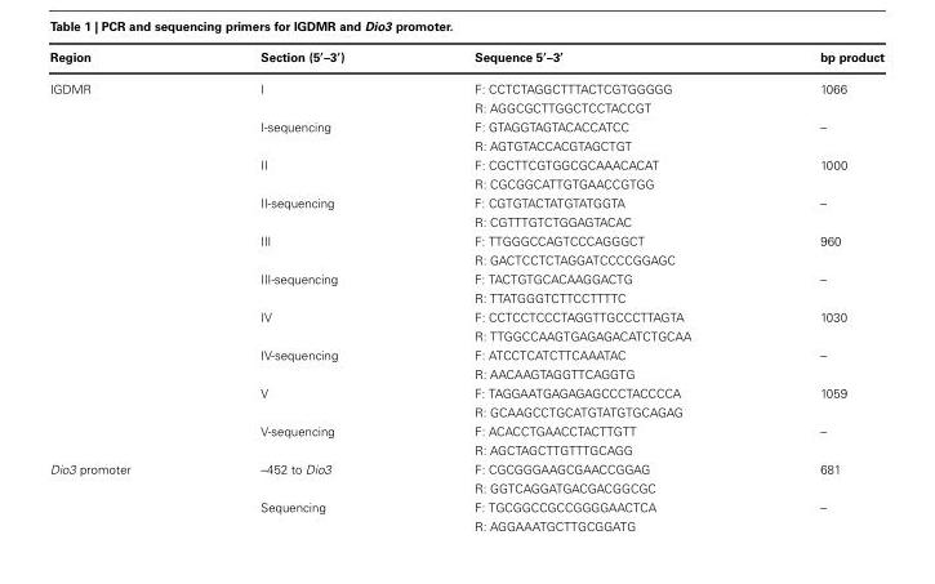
<table><thead><tr><td>Region</td><td>Section (5′–3′)</td><td>Sequence 5′–3′</td><td>bp product</td></tr></thead><tbody><tr><td rowspan="20">IGDMR</td><td>I</td><td>F: CCTCTAGGCTTTACTCGTGGGGG</td><td>1066</td></tr><tr><td></td><td>R: AGGCGCTTGGCTCCTACCGT</td><td></td></tr><tr><td>I-sequencing</td><td>F: GTAGGTAGTACACCATCC</td><td>–</td></tr><tr><td></td><td>R: AGTGTACCACGTAGCTGT</td><td></td></tr><tr><td>II</td><td>F: CGCTTCGTGGCGCAAACACAT</td><td>1000</td></tr><tr><td></td><td>R: CGCGGCATTGTGAACCGTGG</td><td></td></tr><tr><td>II-sequencing</td><td>F: CGTGTACTATGTATGGTA</td><td>–</td></tr><tr><td></td><td>R: CGTTTGTCTGGAGTACAC</td><td></td></tr><tr><td>III</td><td>F: TTGGGCCAGTCCCAGGGCT</td><td>960</td></tr><tr><td></td><td>R: GACTCCTCTAGGATCCCCGGAGC</td><td></td></tr><tr><td>III-sequencing</td><td>F: TACTGTGCACAAGGACTG</td><td>–</td></tr><tr><td></td><td>R: TTATGGGTCTTCCTTTTC</td><td></td></tr><tr><td>IV</td><td>F: CCTCCTCCCTAGGTTGCCCTTAGTA</td><td>1030</td></tr><tr><td></td><td>R: TTGGCCAAGTGAGAGACATCTGCAA</td><td></td></tr><tr><td>IV-sequencing</td><td>F: ATCCTCATCTTCAAATAC</td><td>–</td></tr><tr><td></td><td>R: AACAAGTAGGTTCAGGTG</td><td></td></tr><tr><td>V</td><td>F: TAGGAATGAGAGAGCCCTACCCCA</td><td>1059</td></tr><tr><td></td><td>R: GCAAGCCTGCATGTATGTGCAGAG</td><td></td></tr><tr><td>V-sequencing</td><td>F: ACACCTGAACCTACTTGTT</td><td>–</td></tr><tr><td></td><td>R: AGCTAGCTTGTTTGCAGG</td><td></td></tr><tr><td rowspan="4">Dio3 promoter</td><td>–452 to Dio3</td><td>F: CGCGGGAAGCGAACCGGAG</td><td>681</td></tr><tr><td></td><td>R: GGTCAGGATGACGACGGCGC</td><td></td></tr><tr><td>Sequencing</td><td>F: TGCGGCCGCCGGGGAACTCA</td><td>–</td></tr><tr><td></td><td>R: AGGAAATGCTTGCGGATG</td><td></td></tr></tbody></table>